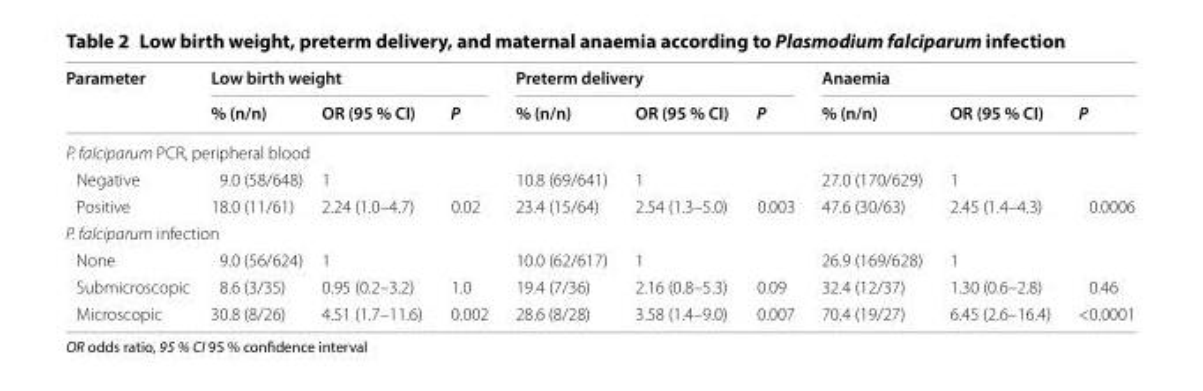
<table><thead><tr><td rowspan="2">Parameter</td><td colspan="3">Low birth weight</td><td colspan="3">Preterm delivery</td><td colspan="3">Anaemia</td></tr><tr><td>% (n/n)</td><td>OR (95 % CI)</td><td>P</td><td>% (n/n)</td><td>OR (95 % CI)</td><td>P</td><td>% (n/n)</td><td>OR (95 % CI)</td><td>P</td></tr></thead><tbody><tr><td colspan="10">P. falciparum PCR, peripheral blood</td></tr><tr><td>Negative</td><td>9.0 (58/648)</td><td>1</td><td></td><td>10.8 (69/641)</td><td>1</td><td></td><td>27.0 (170/629)</td><td>1</td><td></td></tr><tr><td>Positive</td><td>18.0 (11/61)</td><td>2.24 (1.0–4.7)</td><td>0.02</td><td>23.4 (15/64)</td><td>2.54 (1.3–5.0)</td><td>0.003</td><td>47.6 (30/63)</td><td>2.45 (1.4–4.3)</td><td>0.0006</td></tr><tr><td colspan="10">P. falciparum infection</td></tr><tr><td>None</td><td>9.0 (56/624)</td><td>1</td><td></td><td>10.0 (62/617)</td><td>1</td><td></td><td>26.9 (169/628)</td><td>1</td><td></td></tr><tr><td>Submicroscopic</td><td>8.6 (3/35)</td><td>0.95 (0.2–3.2)</td><td>1.0</td><td>19.4 (7/36)</td><td>2.16 (0.8–5.3)</td><td>0.09</td><td>32.4 (12/37)</td><td>1.30 (0.6–2.8)</td><td>0.46</td></tr><tr><td>Microscopic</td><td>30.8 (8/26)</td><td>4.51 (1.7–11.6)</td><td>0.002</td><td>28.6 (8/28)</td><td>3.58 (1.4–9.0)</td><td>0.007</td><td>70.4 (19/27)</td><td>6.45 (2.6–16.4)</td><td>&lt;0.0001</td></tr></tbody></table>